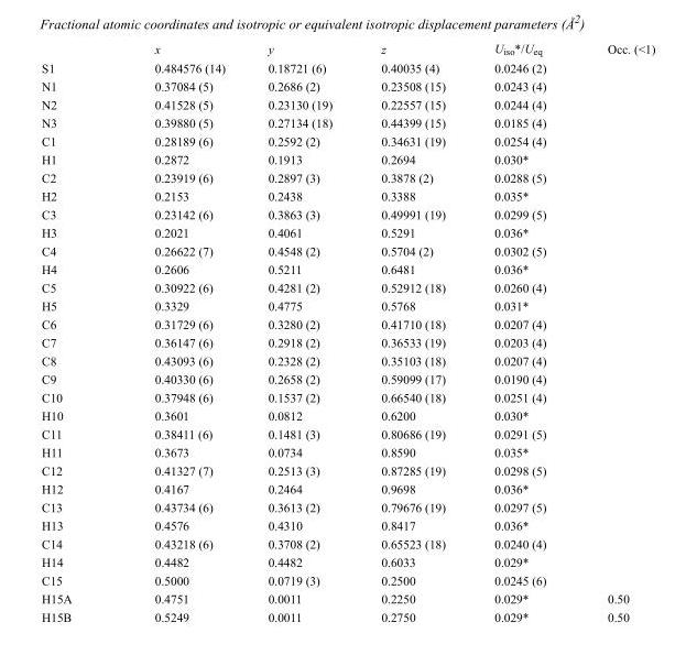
<table><thead><tr><td></td><td>x</td><td>y</td><td>z</td><td>U<sub>iso</sub>*/U<sub>eq</sub></td><td>Occ. (&lt;1)</td></tr></thead><tbody><tr><td>S1</td><td>0.484576 (14)</td><td>0.18721 (6)</td><td>0.40035 (4)</td><td>0.0246 (2)</td><td></td></tr><tr><td>N1</td><td>0.37084 (5)</td><td>0.2686 (2)</td><td>0.23508 (15)</td><td>0.0243 (4)</td><td></td></tr><tr><td>N2</td><td>0.41528 (5)</td><td>0.23130 (19)</td><td>0.22557 (15)</td><td>0.0244 (4)</td><td></td></tr><tr><td>N3</td><td>0.39880 (5)</td><td>0.27134 (18)</td><td>0.44399 (15)</td><td>0.0185 (4)</td><td></td></tr><tr><td>C1</td><td>0.28189 (6)</td><td>0.2592 (2)</td><td>0.34631 (19)</td><td>0.0254 (4)</td><td></td></tr><tr><td>H1</td><td>0.2872</td><td>0.1913</td><td>0.2694</td><td>0.030*</td><td></td></tr><tr><td>C2</td><td>0.23919 (6)</td><td>0.2897 (3)</td><td>0.3878 (2)</td><td>0.0288 (5)</td><td></td></tr><tr><td>H2</td><td>0.2153</td><td>0.2438</td><td>0.3388</td><td>0.035*</td><td></td></tr><tr><td>C3</td><td>0.23142 (6)</td><td>0.3863 (3)</td><td>0.49991 (19)</td><td>0.0299 (5)</td><td></td></tr><tr><td>H3</td><td>0.2021</td><td>0.4061</td><td>0.5291</td><td>0.036*</td><td></td></tr><tr><td>C4</td><td>0.26622 (7)</td><td>0.4548 (2)</td><td>0.5704 (2)</td><td>0.0302 (5)</td><td></td></tr><tr><td>H4</td><td>0.2606</td><td>0.5211</td><td>0.6481</td><td>0.036*</td><td></td></tr><tr><td>C5</td><td>0.30922 (6)</td><td>0.4281 (2)</td><td>0.52912 (18)</td><td>0.0260 (4)</td><td></td></tr><tr><td>H5</td><td>0.3329</td><td>0.4775</td><td>0.5768</td><td>0.031*</td><td></td></tr><tr><td>C6</td><td>0.31729 (6)</td><td>0.3280 (2)</td><td>0.41710 (18)</td><td>0.0207 (4)</td><td></td></tr><tr><td>C7</td><td>0.36147 (6)</td><td>0.2918 (2)</td><td>0.36533 (19)</td><td>0.0203 (4)</td><td></td></tr><tr><td>C8</td><td>0.43093 (6)</td><td>0.2328 (2)</td><td>0.35103 (18)</td><td>0.0207 (4)</td><td></td></tr><tr><td>C9</td><td>0.40330 (6)</td><td>0.2658 (2)</td><td>0.59099 (17)</td><td>0.0190 (4)</td><td></td></tr><tr><td>C10</td><td>0.37948 (6)</td><td>0.1537 (2)</td><td>0.66540 (18)</td><td>0.0251 (4)</td><td></td></tr><tr><td>H10</td><td>0.3601</td><td>0.0812</td><td>0.6200</td><td>0.030*</td><td></td></tr><tr><td>C11</td><td>0.38411 (6)</td><td>0.1481 (3)</td><td>0.80686 (19)</td><td>0.0291 (5)</td><td></td></tr><tr><td>H11</td><td>0.3673</td><td>0.0734</td><td>0.8590</td><td>0.035*</td><td></td></tr><tr><td>C12</td><td>0.41327 (7)</td><td>0.2513 (3)</td><td>0.87285 (19)</td><td>0.0298 (5)</td><td></td></tr><tr><td>H12</td><td>0.4167</td><td>0.2464</td><td>0.9698</td><td>0.036*</td><td></td></tr><tr><td>C13</td><td>0.43734 (6)</td><td>0.3613 (2)</td><td>0.79676 (19)</td><td>0.0297 (5)</td><td></td></tr><tr><td>H13</td><td>0.4576</td><td>0.4310</td><td>0.8417</td><td>0.036*</td><td></td></tr><tr><td>C14</td><td>0.43218 (6)</td><td>0.3708 (2)</td><td>0.65523 (18)</td><td>0.0240 (4)</td><td></td></tr><tr><td>H14</td><td>0.4482</td><td>0.4482</td><td>0.6033</td><td>0.029*</td><td></td></tr><tr><td>C15</td><td>0.5000</td><td>0.0719 (3)</td><td>0.2500</td><td>0.0245 (6)</td><td></td></tr><tr><td>H15A</td><td>0.4751</td><td>0.0011</td><td>0.2250</td><td>0.029*</td><td>0.50</td></tr><tr><td>H15B</td><td>0.5249</td><td>0.0011</td><td>0.2750</td><td>0.029*</td><td>0.50</td></tr></tbody></table>